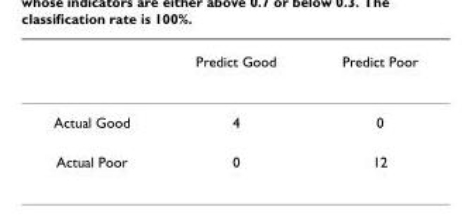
<table><thead><tr><td></td><td>Predict Good</td><td>Predict Poor</td></tr></thead><tbody><tr><td>Actual Good</td><td>4</td><td>0</td></tr><tr><td>Actual Poor</td><td>0</td><td>12</td></tr></tbody></table>